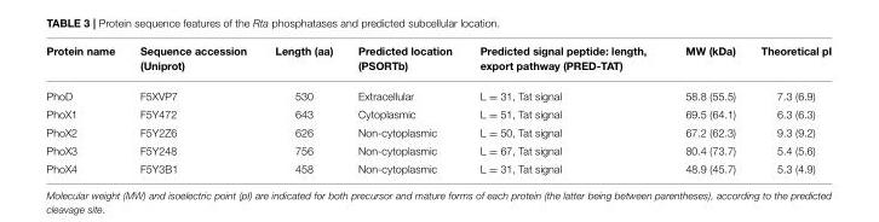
<table><thead><tr><td>Protein name</td><td>Sequence accession (Uniprot)</td><td>Length (aa)</td><td>Predicted location (PSORTb)</td><td>Predicted signal peptide: length, export pathway (PRED-TAT)</td><td>MW (kDa)</td><td>Theoretical pI</td></tr></thead><tbody><tr><td>PhoD</td><td>F5XVP7</td><td>530</td><td>Extracellular</td><td>L = 31, Tat signal</td><td>58.8 (55.5)</td><td>7.3 (6.9)</td></tr><tr><td>PhoX1</td><td>F5Y472</td><td>643</td><td>Cytoplasmic</td><td>L = 51, Tat signal</td><td>69.5 (64.1)</td><td>6.3 (6.3)</td></tr><tr><td>PhoX2</td><td>F5Y2Z6</td><td>626</td><td>Non-cytoplasmic</td><td>L = 50, Tat signal</td><td>67.2 (62.3)</td><td>9.3 (9.2)</td></tr><tr><td>PhoX3</td><td>F5Y248</td><td>756</td><td>Non-cytoplasmic</td><td>L = 67, Tat signal</td><td>80.4 (73.7)</td><td>5.4 (5.6)</td></tr><tr><td>PhoX4</td><td>F5Y3B1</td><td>458</td><td>Non-cytoplasmic</td><td>L = 31, Tat signal</td><td>48.9 (45.7)</td><td>5.3 (4.9)</td></tr></tbody></table>